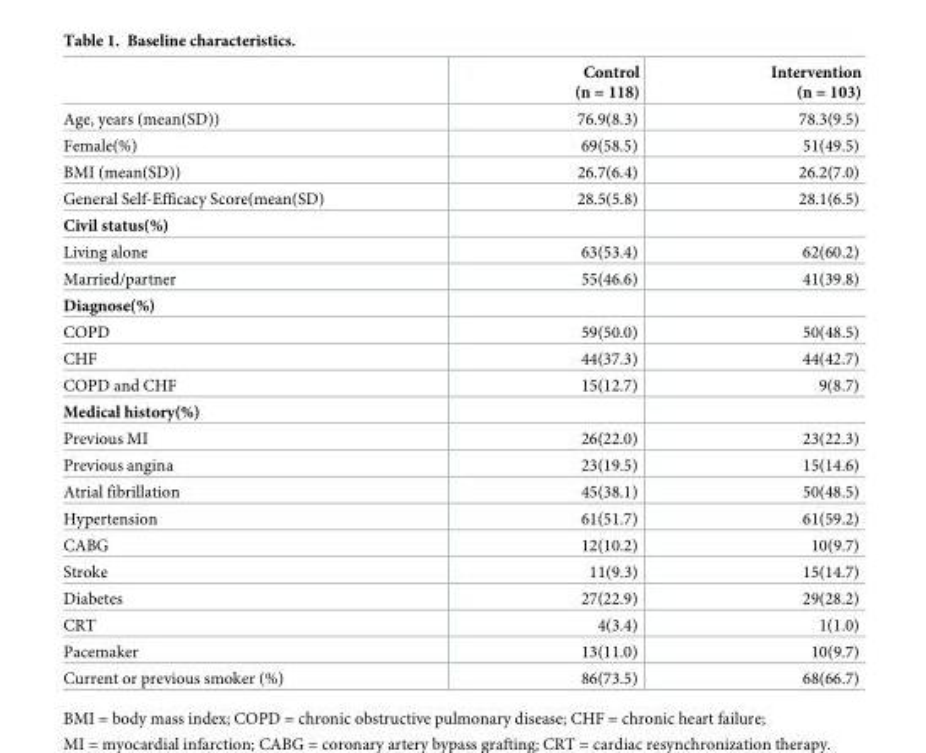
<table><thead><tr><td></td><td>Control (n = 118)</td><td>Intervention (n = 103)</td></tr></thead><tbody><tr><td>Age, years (mean(SD))</td><td>76.9(8.3)</td><td>78.3(9.5)</td></tr><tr><td>Female(%)</td><td>69(58.5)</td><td>51(49.5)</td></tr><tr><td>BMI (mean(SD))</td><td>26.7(6.4)</td><td>26.2(7.0)</td></tr><tr><td>General Self-Efficacy Score(mean(SD)</td><td>28.5(5.8)</td><td>28.1(6.5)</td></tr><tr><td colspan="3">Civil status(%)</td></tr><tr><td>Living alone</td><td>63(53.4)</td><td>62(60.2)</td></tr><tr><td>Married/partner</td><td>55(46.6)</td><td>41(39.8)</td></tr><tr><td colspan="3">Diagnose(%)</td></tr><tr><td>COPD</td><td>59(50.0)</td><td>50(48.5)</td></tr><tr><td>CHF</td><td>44(37.3)</td><td>44(42.7)</td></tr><tr><td>COPD and CHF</td><td>15(12.7)</td><td>9(8.7)</td></tr><tr><td colspan="3">Medical history(%)</td></tr><tr><td>Previous MI</td><td>26(22.0)</td><td>23(22.3)</td></tr><tr><td>Previous angina</td><td>23(19.5)</td><td>15(14.6)</td></tr><tr><td>Atrial fibrillation</td><td>45(38.1)</td><td>50(48.5)</td></tr><tr><td>Hypertension</td><td>61(51.7)</td><td>61(59.2)</td></tr><tr><td>CABG</td><td>12(10.2)</td><td>10(9.7)</td></tr><tr><td>Stroke</td><td>11(9.3)</td><td>15(14.7)</td></tr><tr><td>Diabetes</td><td>27(22.9)</td><td>29(28.2)</td></tr><tr><td>CRT</td><td>4(3.4)</td><td>1(1.0)</td></tr><tr><td>Pacemaker</td><td>13(11.0)</td><td>10(9.7)</td></tr><tr><td>Current or previous smoker (%)</td><td>86(73.5)</td><td>68(66.7)</td></tr></tbody></table>